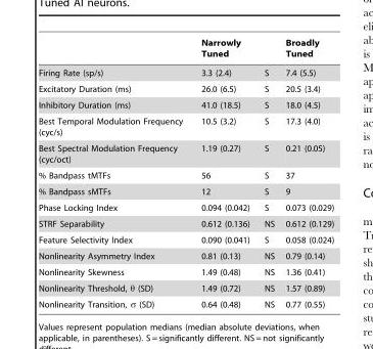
<table><thead><tr><td></td><td>Narrowly Tuned</td><td></td><td>Broadly Tuned</td></tr></thead><tbody><tr><td>Firing Rate (sp/s)</td><td>3.3 (2.4)</td><td>S</td><td>7.4 (5.5)</td></tr><tr><td>Excitatory Duration (ms)</td><td>26.0 (6.5)</td><td>S</td><td>20.5 (3.4)</td></tr><tr><td>Inhibitory Duration (ms)</td><td>41.0 (18.5)</td><td>S</td><td>18.0 (4.5)</td></tr><tr><td>Best Temporal Modulation Frequency (cyc/s)</td><td>10.5 (3.2)</td><td>S</td><td>17.3 (4.0)</td></tr><tr><td>Best Spectral Modulation Frequency (cyc/oct)</td><td>1.19 (0.27)</td><td>S</td><td>0.21 (0.05)</td></tr><tr><td>% Bandpass tMTFs</td><td>56</td><td>S</td><td>37</td></tr><tr><td>% Bandpass sMTFs</td><td>12</td><td>S</td><td>9</td></tr><tr><td>Phase Locking Index</td><td>0.094 (0.042)</td><td>S</td><td>0.073 (0.029)</td></tr><tr><td>STRF Separability</td><td>0.612 (0.136)</td><td>NS</td><td>0.612 (0.129)</td></tr><tr><td>Feature Selectivity Index</td><td>0.090 (0.041)</td><td>S</td><td>0.058 (0.024)</td></tr><tr><td>Nonlinearity Asymmetry Index</td><td>0.81 (0.13)</td><td>NS</td><td>0.79 (0.14)</td></tr><tr><td>Nonlinearity Skewness</td><td>1.49 (0.48)</td><td>NS</td><td>1.36 (0.41)</td></tr><tr><td>Nonlinearity Threshold, θ (SD)</td><td>1.49 (0.72)</td><td>NS</td><td>1.57 (0.89)</td></tr><tr><td>Nonlinearity Transition, σ (SD)</td><td>0.64 (0.48)</td><td>NS</td><td>0.77 (0.55)</td></tr></tbody></table>